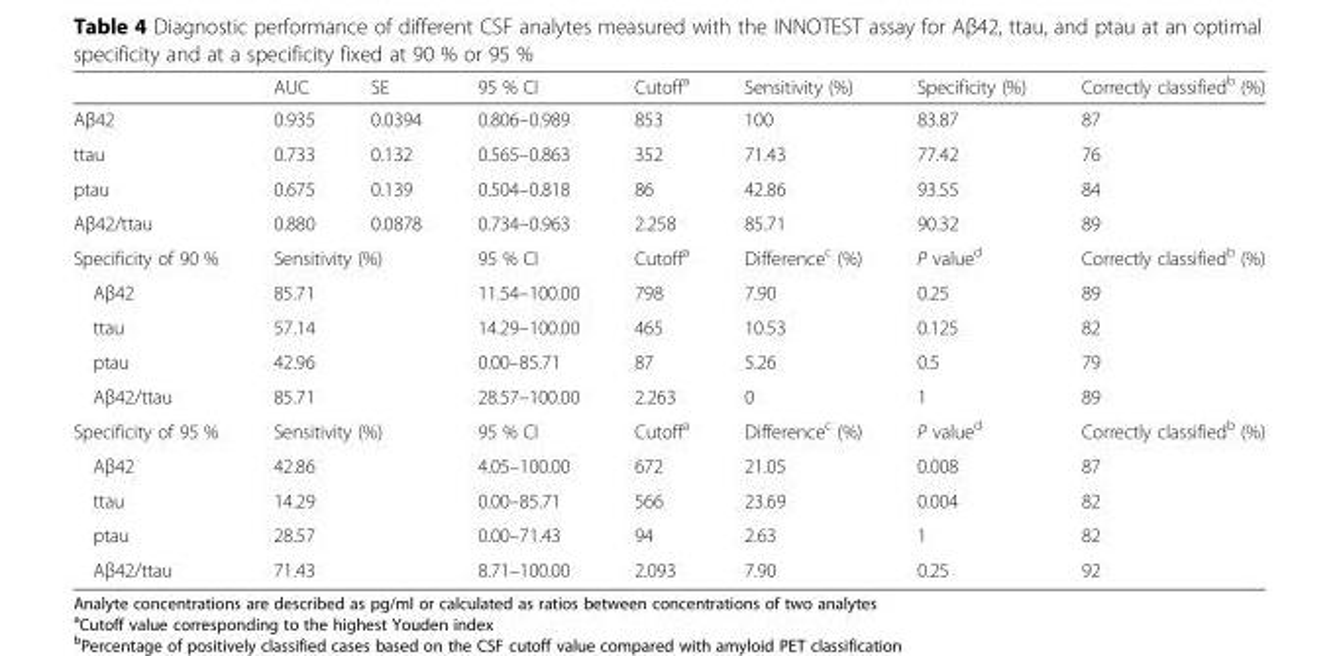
<table><thead><tr><td></td><td>AUC</td><td>SE</td><td>95 % CI</td><td>Cutoff<sup>a</sup></td><td>Sensitivity (%)</td><td>Specificity (%)</td><td>Correctly classified<sup>b</sup> (%)</td></tr></thead><tbody><tr><td>Aβ42</td><td>0.935</td><td>0.0394</td><td>0.806–0.989</td><td>853</td><td>100</td><td>83.87</td><td>87</td></tr><tr><td>ttau</td><td>0.733</td><td>0.132</td><td>0.565–0.863</td><td>352</td><td>71.43</td><td>77.42</td><td>76</td></tr><tr><td>ptau</td><td>0.675</td><td>0.139</td><td>0.504–0.818</td><td>86</td><td>42.86</td><td>93.55</td><td>84</td></tr><tr><td>Aβ42/ttau</td><td>0.880</td><td>0.0878</td><td>0.734–0.963</td><td>2.258</td><td>85.71</td><td>90.32</td><td>89</td></tr><tr><td>Specificity of 90 %</td><td colspan="2">Sensitivity (%)</td><td>95 % CI</td><td>Cutoff<sup>a</sup></td><td>Difference<sup>c</sup> (%)</td><td>P value<sup>d</sup></td><td>Correctly classified<sup>b</sup> (%)</td></tr><tr><td>Aβ42</td><td colspan="2">85.71</td><td>11.54–100.00</td><td>798</td><td>7.90</td><td>0.25</td><td>89</td></tr><tr><td>ttau</td><td colspan="2">57.14</td><td>14.29–100.00</td><td>465</td><td>10.53</td><td>0.125</td><td>82</td></tr><tr><td>ptau</td><td colspan="2">42.96</td><td>0.00–85.71</td><td>87</td><td>5.26</td><td>0.5</td><td>79</td></tr><tr><td>Aβ42/ttau</td><td colspan="2">85.71</td><td>28.57–100.00</td><td>2.263</td><td>0</td><td>1</td><td>89</td></tr><tr><td>Specificity of 95 %</td><td colspan="2">Sensitivity (%)</td><td>95 % CI</td><td>Cutoff<sup>a</sup></td><td>Difference<sup>c</sup> (%)</td><td>P value<sup>d</sup></td><td>Correctly classified<sup>b</sup> (%)</td></tr><tr><td>Aβ42</td><td colspan="2">42.86</td><td>4.05–100.00</td><td>672</td><td>21.05</td><td>0.008</td><td>87</td></tr><tr><td>ttau</td><td colspan="2">14.29</td><td>0.00–85.71</td><td>566</td><td>23.69</td><td>0.004</td><td>82</td></tr><tr><td>ptau</td><td colspan="2">28.57</td><td>0.00–71.43</td><td>94</td><td>2.63</td><td>1</td><td>82</td></tr><tr><td>Aβ42/ttau</td><td colspan="2">71.43</td><td>8.71–100.00</td><td>2.093</td><td>7.90</td><td>0.25</td><td>92</td></tr></tbody></table>